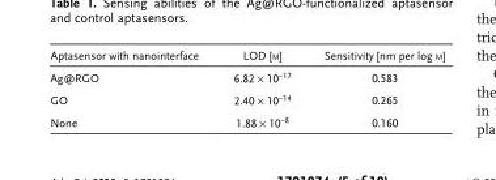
<table><thead><tr><td>Aptasensor with nanointerface</td><td>LOD [m]</td><td>Sensitivity [nm per log m]</td></tr></thead><tbody><tr><td>Ag@RGO</td><td>6.82 × 10<sup>−17</sup></td><td>0.583</td></tr><tr><td>GO</td><td>2.40 × 10<sup>−14</sup></td><td>0.265</td></tr><tr><td>None</td><td>1.88 × 10<sup>−8</sup></td><td>0.160</td></tr></tbody></table>